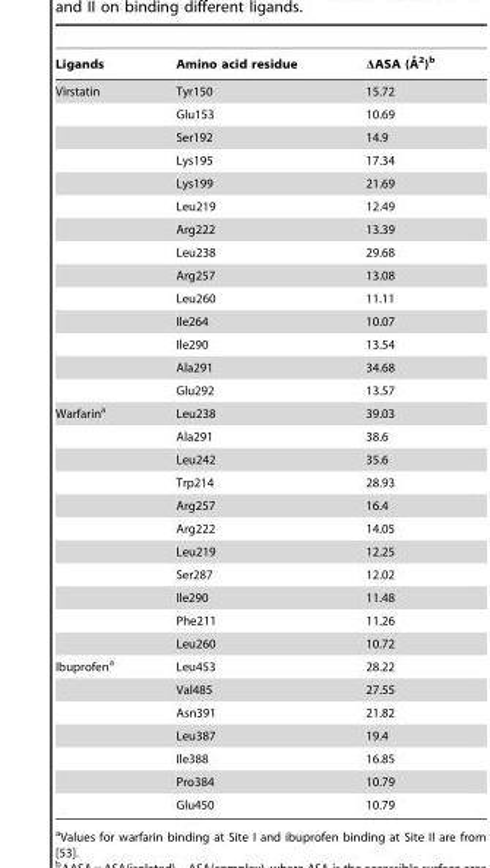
<table><thead><tr><td>Ligands</td><td>Amino acid residue</td><td>DASA (A˚ 2)b</td></tr></thead><tbody><tr><td rowspan="14">Virstatin</td><td>Tyr150</td><td>15.72</td></tr><tr><td>Glu153</td><td>10.69</td></tr><tr><td>Ser192</td><td>14.9</td></tr><tr><td>Lys195</td><td>17.34</td></tr><tr><td>Lys199</td><td>21.69</td></tr><tr><td>Leu219</td><td>12.49</td></tr><tr><td>Arg222</td><td>13.39</td></tr><tr><td>Leu238</td><td>29.68</td></tr><tr><td>Arg257</td><td>13.08</td></tr><tr><td>Leu260</td><td>11.11</td></tr><tr><td>Ile264</td><td>10.07</td></tr><tr><td>Ile290</td><td>13.54</td></tr><tr><td>Ala291</td><td>34.68</td></tr><tr><td>Glu292</td><td>13.57</td></tr><tr><td rowspan="11">Warfarin<sup>a</sup></td><td>Leu238</td><td>39.03</td></tr><tr><td>Ala291</td><td>38.6</td></tr><tr><td>Leu242</td><td>35.6</td></tr><tr><td>Trp214</td><td>28.93</td></tr><tr><td>Arg257</td><td>16.4</td></tr><tr><td>Arg222</td><td>14.05</td></tr><tr><td>Leu219</td><td>12.25</td></tr><tr><td>Ser287</td><td>12.02</td></tr><tr><td>Ile290</td><td>11.48</td></tr><tr><td>Phe211</td><td>11.26</td></tr><tr><td>Leu260</td><td>10.72</td></tr><tr><td rowspan="7">Ibuprofen<sup>a</sup></td><td>Leu453</td><td>28.22</td></tr><tr><td>Val485</td><td>27.55</td></tr><tr><td>Asn391</td><td>21.82</td></tr><tr><td>Leu387</td><td>19.4</td></tr><tr><td>Ile388</td><td>16.85</td></tr><tr><td>Pro384</td><td>10.79</td></tr><tr><td>Glu450</td><td>10.79</td></tr></tbody></table>